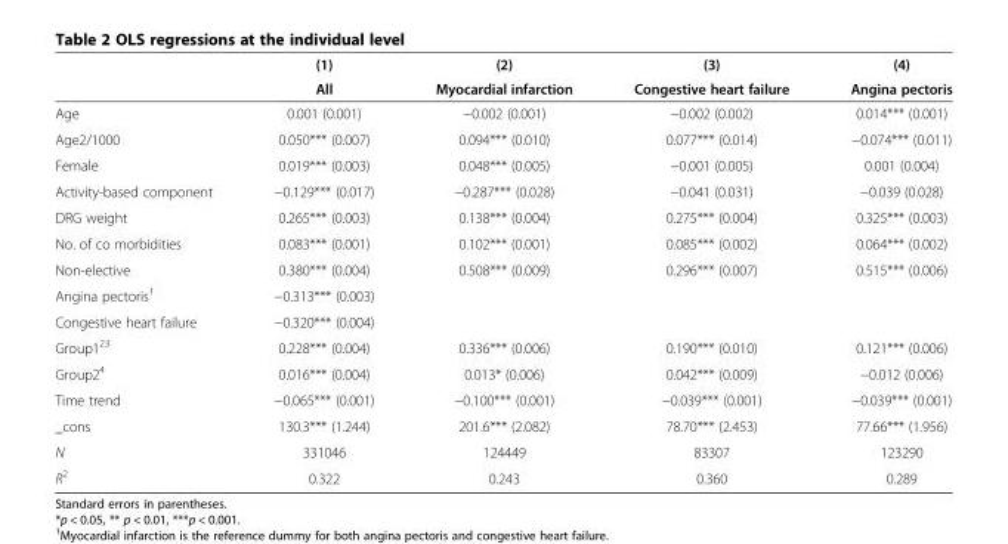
<table><thead><tr><td rowspan="2"></td><td rowspan="2">(1) All</td><td rowspan="2">(2) Myocardial infarction</td><td rowspan="2">(3) Congestive heart failure</td><td rowspan="2">(4) Angina pectoris</td></tr><tr></tr></thead><tbody><tr><td>Age</td><td>0.001 (0.001)</td><td>−0.002 (0.001)</td><td>−0.002 (0.002)</td><td>0.014*** (0.001)</td></tr><tr><td>Age2/1000</td><td>0.050*** (0.007)</td><td>0.094*** (0.010)</td><td>0.077*** (0.014)</td><td>−0.074*** (0.011)</td></tr><tr><td>Female</td><td>0.019*** (0.003)</td><td>0.048*** (0.005)</td><td>−0.001 (0.005)</td><td>0.001 (0.004)</td></tr><tr><td>Activity-based component</td><td>−0.129*** (0.017)</td><td>−0.287*** (0.028)</td><td>−0.041 (0.031)</td><td>−0.039 (0.028)</td></tr><tr><td>DRG weight</td><td>0.265*** (0.003)</td><td>0.138*** (0.004)</td><td>0.275*** (0.004)</td><td>0.325*** (0.003)</td></tr><tr><td>No. of co morbidities</td><td>0.083*** (0.001)</td><td>0.102*** (0.001)</td><td>0.085*** (0.002)</td><td>0.064*** (0.002)</td></tr><tr><td>Non-elective</td><td>0.380*** (0.004)</td><td>0.508*** (0.009)</td><td>0.296*** (0.007)</td><td>0.515*** (0.006)</td></tr><tr><td>Angina pectoris<sup>1</sup></td><td>−0.313*** (0.003)</td><td></td><td></td><td></td></tr><tr><td>Congestive heart failure</td><td>−0.320*** (0.004)</td><td></td><td></td><td></td></tr><tr><td>Group1<sup>23</sup></td><td>0.228*** (0.004)</td><td>0.336*** (0.006)</td><td>0.190*** (0.010)</td><td>0.121*** (0.006)</td></tr><tr><td>Group2<sup>4</sup></td><td>0.016*** (0.004)</td><td>0.013* (0.006)</td><td>0.042*** (0.009)</td><td>−0.012 (0.006)</td></tr><tr><td>Time trend</td><td>−0.065*** (0.001)</td><td>−0.100*** (0.001)</td><td>−0.039*** (0.001)</td><td>−0.039*** (0.001)</td></tr><tr><td>_cons</td><td>130.3*** (1.244)</td><td>201.6*** (2.082)</td><td>78.70*** (2.453)</td><td>77.66*** (1.956)</td></tr><tr><td>N</td><td>331046</td><td>124449</td><td>83307</td><td>123290</td></tr><tr><td>R<sup>2</sup></td><td>0.322</td><td>0.243</td><td>0.360</td><td>0.289</td></tr></tbody></table>